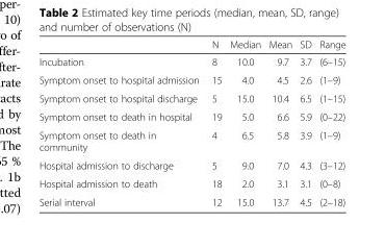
<table><thead><tr><td></td><td>N</td><td>Median</td><td>Mean</td><td>SD</td><td>Range</td></tr></thead><tbody><tr><td>Incubation</td><td>8</td><td>10.0</td><td>9.7</td><td>3.7</td><td>(6–15)</td></tr><tr><td>Symptom onset to hospital admission</td><td>15</td><td>4.0</td><td>4.5</td><td>2.6</td><td>(1–9)</td></tr><tr><td>Symptom onset to hospital discharge</td><td>5</td><td>15.0</td><td>10.4</td><td>6.5</td><td>(1–15)</td></tr><tr><td>Symptom onset to death in hospital</td><td>19</td><td>5.0</td><td>6.6</td><td>5.9</td><td>(0–22)</td></tr><tr><td>Symptom onset to death in community</td><td>4</td><td>6.5</td><td>5.8</td><td>3.9</td><td>(1–9)</td></tr><tr><td>Hospital admission to discharge</td><td>5</td><td>9.0</td><td>7.0</td><td>4.3</td><td>(3–12)</td></tr><tr><td>Hospital admission to death</td><td>18</td><td>2.0</td><td>3.1</td><td>3.1</td><td>(0–8)</td></tr><tr><td>Serial interval</td><td>12</td><td>15.0</td><td>13.7</td><td>4.5</td><td>(2–18)</td></tr></tbody></table>